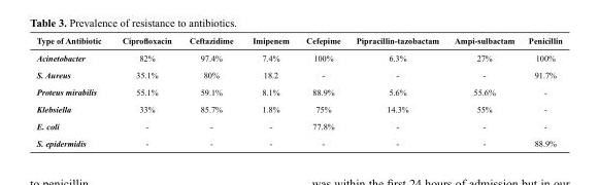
<table><thead><tr><td>Type of Antibiotic</td><td>Ciprofloxacin</td><td>Ceftazidime</td><td>Imipenem</td><td>Cefepime</td><td>Pipracillin-tazobactam</td><td>Ampi-sulbactam</td><td>Penicillin</td></tr></thead><tbody><tr><td>Acinetobacter</td><td>82%</td><td>97.4%</td><td>7.4%</td><td>100%</td><td>6.3%</td><td>27%</td><td>100%</td></tr><tr><td>S. Aureus</td><td>35.1%</td><td>80%</td><td>18.2</td><td>-</td><td>-</td><td>-</td><td>91.7%</td></tr><tr><td>Proteus mirabilis</td><td>55.1%</td><td>59.1%</td><td>8.1%</td><td>88.9%</td><td>5.6%</td><td>55.6%</td><td>-</td></tr><tr><td>Klebsiella</td><td>33%</td><td>85.7%</td><td>1.8%</td><td>75%</td><td>14.3%</td><td>55%</td><td>-</td></tr><tr><td>E. coli</td><td>-</td><td>-</td><td>-</td><td>77.8%</td><td>-</td><td>-</td><td>-</td></tr><tr><td>S. epidermidis</td><td>-</td><td>-</td><td>-</td><td>-</td><td>-</td><td>-</td><td>88.9%</td></tr></tbody></table>